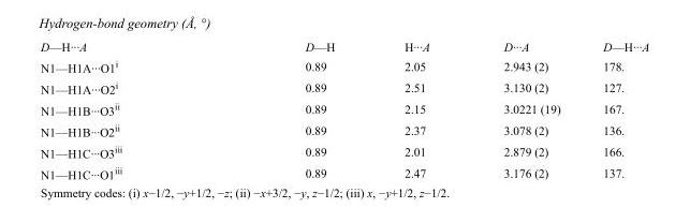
<table><tbody><tr><td>D—H···A</td><td>D—H</td><td>H···A</td><td>D···A</td><td>D—H···A</td></tr><tr><td>N1—H1A···O1<sup>i</sup></td><td>0.89</td><td>2.05</td><td>2.943 (2)</td><td>178.</td></tr><tr><td>N1—H1A···O2<sup>i</sup></td><td>0.89</td><td>2.51</td><td>3.130 (2)</td><td>127.</td></tr><tr><td>N1—H1B···O3<sup>ii</sup></td><td>0.89</td><td>2.15</td><td>3.0221 (19)</td><td>167.</td></tr><tr><td>N1—H1B···O2<sup>ii</sup></td><td>0.89</td><td>2.37</td><td>3.078 (2)</td><td>136.</td></tr><tr><td>N1—H1C···O3<sup>iii</sup></td><td>0.89</td><td>2.01</td><td>2.879 (2)</td><td>166.</td></tr><tr><td>N1—H1C···O1<sup>iii</sup></td><td>0.89</td><td>2.47</td><td>3.176 (2)</td><td>137.</td></tr></tbody></table>